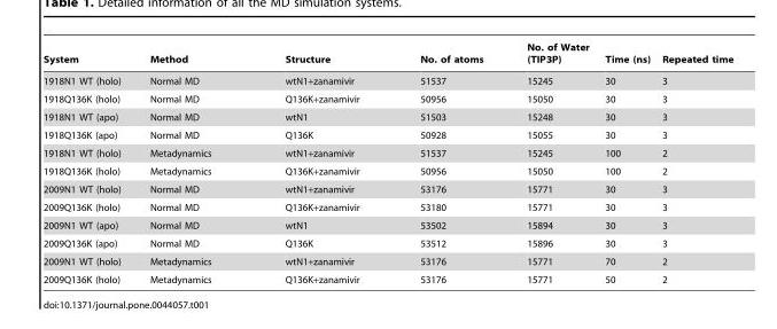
<table><thead><tr><td>System</td><td>Method</td><td>Structure</td><td>No. of atoms</td><td>No. of Water (TIP3P)</td><td>Time (ns)</td><td>Repeated time</td></tr></thead><tbody><tr><td>1918N1 WT (holo)</td><td>Normal MD</td><td>wtN1+zanamivir</td><td>51537</td><td>15245</td><td>30</td><td>3</td></tr><tr><td>1918Q136K (holo)</td><td>Normal MD</td><td>Q136K+zanamivir</td><td>50956</td><td>15050</td><td>30</td><td>3</td></tr><tr><td>1918N1 WT (apo)</td><td>Normal MD</td><td>wtN1</td><td>51503</td><td>15248</td><td>30</td><td>3</td></tr><tr><td>1918Q136K (apo)</td><td>Normal MD</td><td>Q136K</td><td>50928</td><td>15055</td><td>30</td><td>3</td></tr><tr><td>1918N1 WT (holo)</td><td>Metadynamics</td><td>wtN1+zanamivir</td><td>51537</td><td>15245</td><td>100</td><td>2</td></tr><tr><td>1918Q136K (holo)</td><td>Metadynamics</td><td>Q136K+zanamivir</td><td>50956</td><td>15050</td><td>100</td><td>2</td></tr><tr><td>2009N1 WT (holo)</td><td>Normal MD</td><td>wtN1+zanamivir</td><td>53176</td><td>15771</td><td>30</td><td>3</td></tr><tr><td>2009Q136K (holo)</td><td>Normal MD</td><td>Q136K+zanamivir</td><td>53180</td><td>15771</td><td>30</td><td>3</td></tr><tr><td>2009N1 WT (apo)</td><td>Normal MD</td><td>wtN1</td><td>53502</td><td>15894</td><td>30</td><td>3</td></tr><tr><td>2009Q136K (apo)</td><td>Normal MD</td><td>Q136K</td><td>53512</td><td>15896</td><td>30</td><td>3</td></tr><tr><td>2009N1 WT (holo)</td><td>Metadynamics</td><td>wtN1+zanamivir</td><td>53176</td><td>15771</td><td>70</td><td>2</td></tr><tr><td>2009Q136K (holo)</td><td>Metadynamics</td><td>Q136K+zanamivir</td><td>53176</td><td>15771</td><td>50</td><td>2</td></tr></tbody></table>